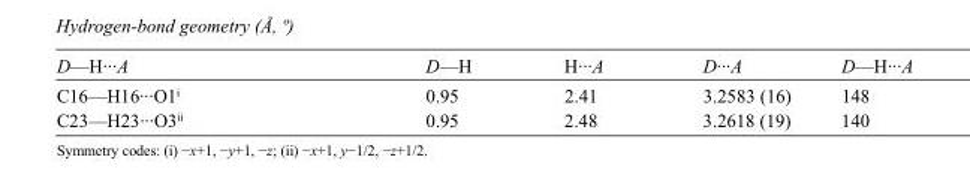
<table><tbody><tr><td>D—H···A</td><td>D—H</td><td>H···A</td><td>D···A</td><td>D—H···A</td></tr><tr><td>C16—H16···O1<sup>i</sup></td><td>0.95</td><td>2.41</td><td>3.2583 (16)</td><td>148</td></tr><tr><td>C23—H23···O3<sup>ii</sup></td><td>0.95</td><td>2.48</td><td>3.2618 (19)</td><td>140</td></tr></tbody></table>